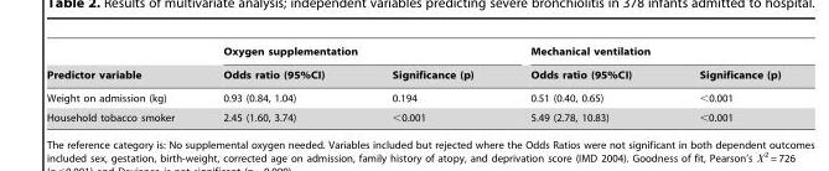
<table><thead><tr><td rowspan="2">Predictor variable</td><td colspan="2">Oxygen supplementation</td><td colspan="2">Mechanical ventilation</td></tr><tr><td>Odds ratio (95%CI)</td><td>Significance (p)</td><td>Odds ratio (95%CI)</td><td>Significance (p)</td></tr></thead><tbody><tr><td>Weight on admission (kg)</td><td>0.93 (0.84, 1.04)</td><td>0.194</td><td>0.51 (0.40, 0.65)</td><td>&lt;0.001</td></tr><tr><td>Household tobacco smoker</td><td>2.45 (1.60, 3.74)</td><td>&lt;0.001</td><td>5.49 (2.78, 10.83)</td><td>&lt;0.001</td></tr></tbody></table>